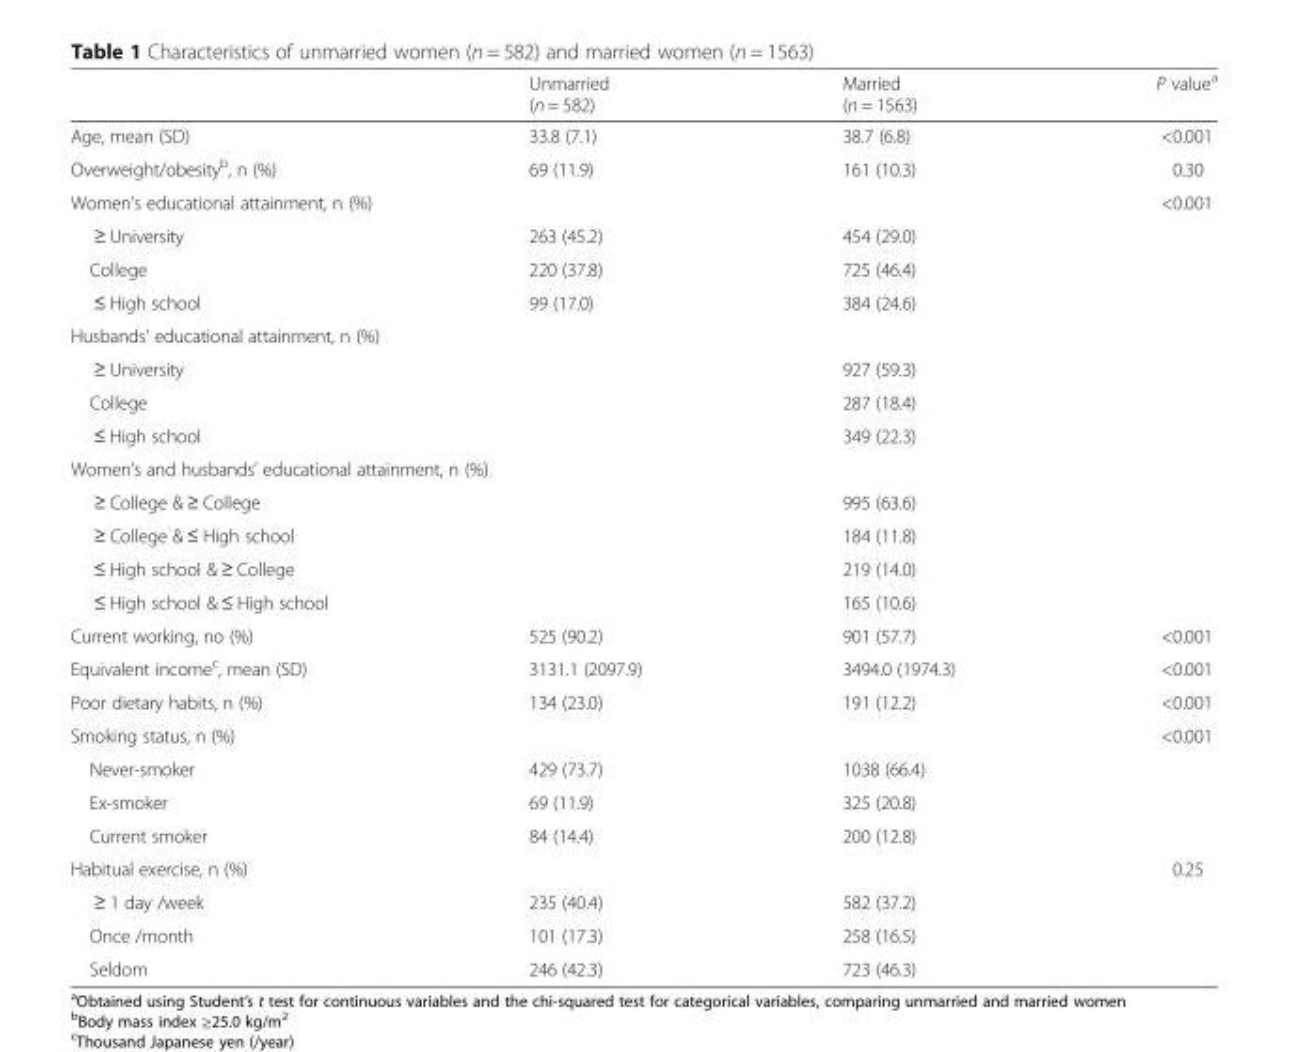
<table><thead><tr><td></td><td>Unmarried (n = 582)</td><td>Married (n = 1563)</td><td>P value<sup>a</sup></td></tr></thead><tbody><tr><td>Age, mean (SD)</td><td>33.8 (7.1)</td><td>38.7 (6.8)</td><td>&lt;0.001</td></tr><tr><td>Overweight/obesity<sup>b</sup>, n (%)</td><td>69 (11.9)</td><td>161 (10.3)</td><td>0.30</td></tr><tr><td colspan="2">Women’s educational attainment, n (%)</td><td></td><td>&lt;0.001</td></tr><tr><td>≥ University</td><td>263 (45.2)</td><td>454 (29.0)</td><td></td></tr><tr><td>College</td><td>220 (37.8)</td><td>725 (46.4)</td><td></td></tr><tr><td>≤ High school</td><td>99 (17.0)</td><td>384 (24.6)</td><td></td></tr><tr><td colspan="4">Husbands’ educational attainment, n (%)</td></tr><tr><td>≥ University</td><td></td><td>927 (59.3)</td><td></td></tr><tr><td>College</td><td></td><td>287 (18.4)</td><td></td></tr><tr><td>≤ High school</td><td></td><td>349 (22.3)</td><td></td></tr><tr><td colspan="4">Women’s and husbands’ educational attainment, n (%)</td></tr><tr><td>≥ College &amp; ≥ College</td><td></td><td>995 (63.6)</td><td></td></tr><tr><td>≥ College &amp; ≤ High school</td><td></td><td>184 (11.8)</td><td></td></tr><tr><td>≤ High school &amp; ≥ College</td><td></td><td>219 (14.0)</td><td></td></tr><tr><td>≤ High school &amp; ≤ High school</td><td></td><td>165 (10.6)</td><td></td></tr><tr><td>Current working, no (%)</td><td>525 (90.2)</td><td>901 (57.7)</td><td>&lt;0.001</td></tr><tr><td>Equivalent income<sup>c</sup>, mean (SD)</td><td>3131.1 (2097.9)</td><td>3494.0 (1974.3)</td><td>&lt;0.001</td></tr><tr><td>Poor dietary habits, n (%)</td><td>134 (23.0)</td><td>191 (12.2)</td><td>&lt;0.001</td></tr><tr><td>Smoking status, n (%)</td><td></td><td></td><td>&lt;0.001</td></tr><tr><td>Never-smoker</td><td>429 (73.7)</td><td>1038 (66.4)</td><td></td></tr><tr><td>Ex-smoker</td><td>69 (11.9)</td><td>325 (20.8)</td><td></td></tr><tr><td>Current smoker</td><td>84 (14.4)</td><td>200 (12.8)</td><td></td></tr><tr><td>Habitual exercise, n (%)</td><td></td><td></td><td>0.25</td></tr><tr><td>≥ 1 day /week</td><td>235 (40.4)</td><td>582 (37.2)</td><td></td></tr><tr><td>Once /month</td><td>101 (17.3)</td><td>258 (16.5)</td><td></td></tr><tr><td>Seldom</td><td>246 (42.3)</td><td>723 (46.3)</td><td></td></tr></tbody></table>